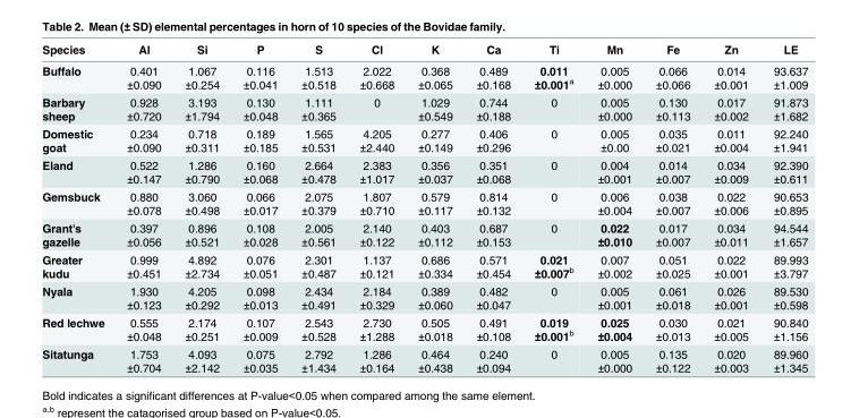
<table><thead><tr><td>Species</td><td>Al</td><td>Si</td><td>P</td><td>S</td><td>Cl</td><td>K</td><td>Ca</td><td>Ti</td><td>Mn</td><td>Fe</td><td>Zn</td><td>LE</td></tr></thead><tbody><tr><td>Buffalo</td><td>0.401 ±0.090</td><td>1.067 ±0.254</td><td>0.116 ±0.041</td><td>1.513 ±0.518</td><td>2.022 ±0.668</td><td>0.368 ±0.065</td><td>0.489 ±0.168</td><td>0.011 ±0.001<sup>a</sup></td><td>0.005 ±0.000</td><td>0.066 ±0.066</td><td>0.014 ±0.001</td><td>93.637 ±1.009</td></tr><tr><td>Barbary sheep</td><td>0.928 ±0.720</td><td>3.193 ±1.794</td><td>0.130 ±0.048</td><td>1.111 ±0.365</td><td>0</td><td>1.029 ±0.549</td><td>0.744 ±0.188</td><td>0</td><td>0.005 ±0.000</td><td>0.130 ±0.113</td><td>0.017 ±0.002</td><td>91.873 ±1.682</td></tr><tr><td>Domestic goat</td><td>0.234 ±0.090</td><td>0.718 ±0.311</td><td>0.189 ±0.185</td><td>1.565 ±0.531</td><td>4.205 ±2.440</td><td>0.277 ±0.149</td><td>0.406 ±0.296</td><td>0</td><td>0.005 ±0.00</td><td>0.035 ±0.021</td><td>0.011 ±0.004</td><td>92.240 ±1.941</td></tr><tr><td>Eland</td><td>0.522 ±0.147</td><td>1.286 ±0.790</td><td>0.160 ±0.068</td><td>2.664 ±0.478</td><td>2.383 ±1.017</td><td>0.356 ±0.037</td><td>0.351 ±0.068</td><td>0</td><td>0.004 ±0.001</td><td>0.014 ±0.007</td><td>0.034 ±0.009</td><td>92.390 ±0.611</td></tr><tr><td>Gemsbuck</td><td>0.880 ±0.078</td><td>3.060 ±0.498</td><td>0.066 ±0.017</td><td>2.075 ±0.379</td><td>1.807 ±0.710</td><td>0.579 ±0.117</td><td>0.814 ±0.132</td><td>0</td><td>0.006 ±0.004</td><td>0.038 ±0.007</td><td>0.022 ±0.006</td><td>90.653 ±0.895</td></tr><tr><td>Grant&#x27;s gazelle</td><td>0.397 ±0.056</td><td>0.896 ±0.521</td><td>0.108 ±0.028</td><td>2.005 ±0.561</td><td>2.140 ±0.122</td><td>0.403 ±0.112</td><td>0.687 ±0.153</td><td>0</td><td>0.022 ±0.010</td><td>0.017 ±0.007</td><td>0.034 ±0.011</td><td>94.544 ±1.657</td></tr><tr><td>Greater kudu</td><td>0.999 ±0.451</td><td>4.892 ±2.734</td><td>0.076 ±0.051</td><td>2.301 ±0.487</td><td>1.137 ±0.121</td><td>0.686 ±0.334</td><td>0.571 ±0.454</td><td>0.021 ±0.007<sup>b</sup></td><td>0.007 ±0.002</td><td>0.051 ±0.025</td><td>0.022 ±0.001</td><td>89.993 ±3.797</td></tr><tr><td>Nyala</td><td>1.930 ±0.123</td><td>4.205 ±0.292</td><td>0.098 ±0.013</td><td>2.434 ±0.491</td><td>2.184 ±0.329</td><td>0.389 ±0.060</td><td>0.482 ±0.047</td><td>0</td><td>0.005 ±0.001</td><td>0.061 ±0.018</td><td>0.026 ±0.001</td><td>89.530 ±0.598</td></tr><tr><td>Red lechwe</td><td>0.555 ±0.048</td><td>2.174 ±0.251</td><td>0.107 ±0.009</td><td>2.543 ±0.528</td><td>2.730 ±1.288</td><td>0.505 ±0.018</td><td>0.491 ±0.108</td><td>0.019 ±0.001<sup>b</sup></td><td>0.025 ±0.004</td><td>0.030 ±0.013</td><td>0.021 ±0.005</td><td>90.840 ±1.156</td></tr><tr><td>Sitatunga</td><td>1.753 ±0.704</td><td>4.093 ±2.142</td><td>0.075 ±0.035</td><td>2.792 ±1.434</td><td>1.286 ±0.164</td><td>0.464 ±0.438</td><td>0.240 ±0.094</td><td>0</td><td>0.005 ±0.000</td><td>0.135 ±0.122</td><td>0.020 ±0.003</td><td>89.960 ±1.345</td></tr></tbody></table>